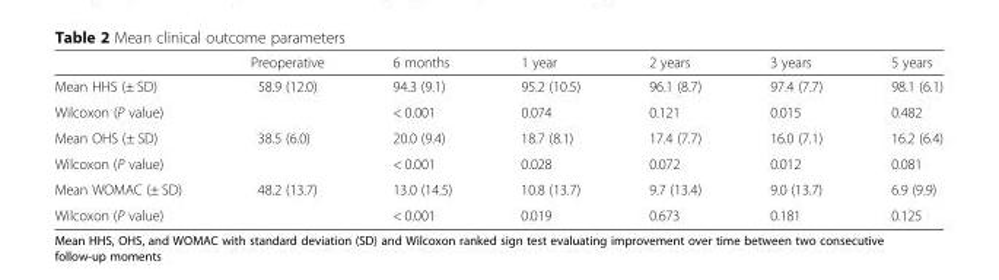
<table><thead><tr><td></td><td>Preoperative</td><td>6 months</td><td>1 year</td><td>2 years</td><td>3 years</td><td>5 years</td></tr></thead><tbody><tr><td>Mean HHS (± SD)</td><td>58.9 (12.0)</td><td>94.3 (9.1)</td><td>95.2 (10.5)</td><td>96.1 (8.7)</td><td>97.4 (7.7)</td><td>98.1 (6.1)</td></tr><tr><td>Wilcoxon (P value)</td><td></td><td>&lt; 0.001</td><td>0.074</td><td>0.121</td><td>0.015</td><td>0.482</td></tr><tr><td>Mean OHS (± SD)</td><td>38.5 (6.0)</td><td>20.0 (9.4)</td><td>18.7 (8.1)</td><td>17.4 (7.7)</td><td>16.0 (7.1)</td><td>16.2 (6.4)</td></tr><tr><td>Wilcoxon (P value)</td><td></td><td>&lt; 0.001</td><td>0.028</td><td>0.072</td><td>0.012</td><td>0.081</td></tr><tr><td>Mean WOMAC (± SD)</td><td>48.2 (13.7)</td><td>13.0 (14.5)</td><td>10.8 (13.7)</td><td>9.7 (13.4)</td><td>9.0 (13.7)</td><td>6.9 (9.9)</td></tr><tr><td>Wilcoxon (P value)</td><td></td><td>&lt; 0.001</td><td>0.019</td><td>0.673</td><td>0.181</td><td>0.125</td></tr></tbody></table>